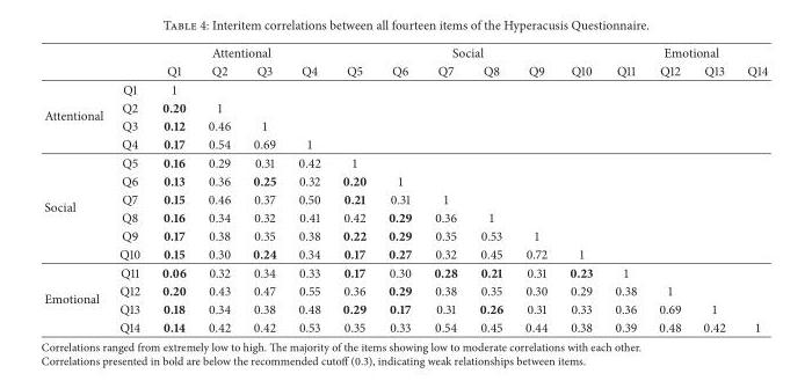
<table><thead><tr><td rowspan="2"></td><td rowspan="2"></td><td colspan="4">Attentional</td><td colspan="6">Social</td><td colspan="4">Emotional</td></tr><tr><td>Q1</td><td>Q2</td><td>Q3</td><td>Q4</td><td>Q5</td><td>Q6</td><td>Q7</td><td>Q8</td><td>Q9</td><td>Q10</td><td>Q11</td><td>Q12</td><td>Q13</td><td>Q14</td></tr></thead><tbody><tr><td rowspan="4">Attentional</td><td>Q1</td><td>1</td><td></td><td></td><td></td><td></td><td></td><td></td><td></td><td></td><td></td><td></td><td></td><td></td><td></td></tr><tr><td>Q2</td><td>0.20</td><td>1</td><td></td><td></td><td></td><td></td><td></td><td></td><td></td><td></td><td></td><td></td><td></td><td></td></tr><tr><td>Q3</td><td>0.12</td><td>0.46</td><td>1</td><td></td><td></td><td></td><td></td><td></td><td></td><td></td><td></td><td></td><td></td><td></td></tr><tr><td>Q4</td><td>0.17</td><td>0.54</td><td>0.69</td><td>1</td><td></td><td></td><td></td><td></td><td></td><td></td><td></td><td></td><td></td><td></td></tr><tr><td rowspan="6">Social</td><td>Q5</td><td>0.16</td><td>0.29</td><td>0.31</td><td>0.42</td><td>1</td><td></td><td></td><td></td><td></td><td></td><td></td><td></td><td></td><td></td></tr><tr><td>Q6</td><td>0.13</td><td>0.36</td><td>0.25</td><td>0.32</td><td>0.20</td><td>1</td><td></td><td></td><td></td><td></td><td></td><td></td><td></td><td></td></tr><tr><td>Q7</td><td>0.15</td><td>0.46</td><td>0.37</td><td>0.50</td><td>0.21</td><td>0.31</td><td>1</td><td></td><td></td><td></td><td></td><td></td><td></td><td></td></tr><tr><td>Q8</td><td>0.16</td><td>0.34</td><td>0.32</td><td>0.41</td><td>0.42</td><td>0.29</td><td>0.36</td><td>1</td><td></td><td></td><td></td><td></td><td></td><td></td></tr><tr><td>Q9</td><td>0.17</td><td>0.38</td><td>0.35</td><td>0.38</td><td>0.22</td><td>0.29</td><td>0.35</td><td>0.53</td><td>1</td><td></td><td></td><td></td><td></td><td></td></tr><tr><td>Q10</td><td>0.15</td><td>0.30</td><td>0.24</td><td>0.34</td><td>0.17</td><td>0.27</td><td>0.32</td><td>0.45</td><td>0.72</td><td>1</td><td></td><td></td><td></td><td></td></tr><tr><td rowspan="4">Emotional</td><td>Q11</td><td>0.06</td><td>0.32</td><td>0.34</td><td>0.33</td><td>0.17</td><td>0.30</td><td>0.28</td><td>0.21</td><td>0.31</td><td>0.23</td><td>1</td><td></td><td></td><td></td></tr><tr><td>Q12</td><td>0.20</td><td>0.43</td><td>0.47</td><td>0.55</td><td>0.36</td><td>0.29</td><td>0.38</td><td>0.35</td><td>0.30</td><td>0.29</td><td>0.38</td><td>1</td><td></td><td></td></tr><tr><td>Q13</td><td>0.18</td><td>0.34</td><td>0.38</td><td>0.48</td><td>0.29</td><td>0.17</td><td>0.31</td><td>0.26</td><td>0.31</td><td>0.33</td><td>0.36</td><td>0.69</td><td>1</td><td></td></tr><tr><td>Q14</td><td>0.14</td><td>0.42</td><td>0.42</td><td>0.53</td><td>0.35</td><td>0.33</td><td>0.54</td><td>0.45</td><td>0.44</td><td>0.38</td><td>0.39</td><td>0.48</td><td>0.42</td><td>1</td></tr></tbody></table>